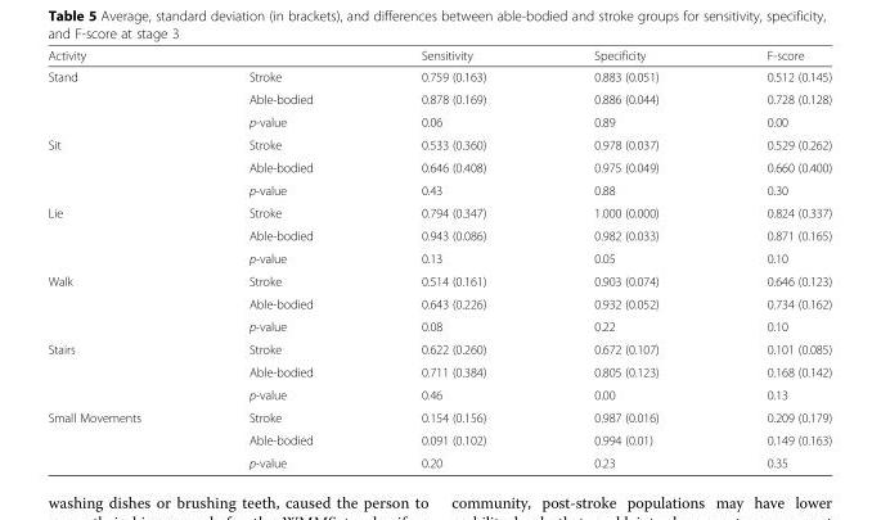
<table><thead><tr><td>Activity</td><td></td><td>Sensitivity</td><td>Specificity</td><td>F-score</td></tr></thead><tbody><tr><td rowspan="3">Stand</td><td>Stroke</td><td>0.759 (0.163)</td><td>0.883 (0.051)</td><td>0.512 (0.145)</td></tr><tr><td>Able-bodied</td><td>0.878 (0.169)</td><td>0.886 (0.044)</td><td>0.728 (0.128)</td></tr><tr><td>p-value</td><td>0.06</td><td>0.89</td><td>0.00</td></tr><tr><td rowspan="3">Sit</td><td>Stroke</td><td>0.533 (0.360)</td><td>0.978 (0.037)</td><td>0.529 (0.262)</td></tr><tr><td>Able-bodied</td><td>0.646 (0.408)</td><td>0.975 (0.049)</td><td>0.660 (0.400)</td></tr><tr><td>p-value</td><td>0.43</td><td>0.88</td><td>0.30</td></tr><tr><td rowspan="3">Lie</td><td>Stroke</td><td>0.794 (0.347)</td><td>1.000 (0.000)</td><td>0.824 (0.337)</td></tr><tr><td>Able-bodied</td><td>0.943 (0.086)</td><td>0.982 (0.033)</td><td>0.871 (0.165)</td></tr><tr><td>p-value</td><td>0.13</td><td>0.05</td><td>0.10</td></tr><tr><td rowspan="3">Walk</td><td>Stroke</td><td>0.514 (0.161)</td><td>0.903 (0.074)</td><td>0.646 (0.123)</td></tr><tr><td>Able-bodied</td><td>0.643 (0.226)</td><td>0.932 (0.052)</td><td>0.734 (0.162)</td></tr><tr><td>p-value</td><td>0.08</td><td>0.22</td><td>0.10</td></tr><tr><td rowspan="3">Stairs</td><td>Stroke</td><td>0.622 (0.260)</td><td>0.672 (0.107)</td><td>0.101 (0.085)</td></tr><tr><td>Able-bodied</td><td>0.711 (0.384)</td><td>0.805 (0.123)</td><td>0.168 (0.142)</td></tr><tr><td>p-value</td><td>0.46</td><td>0.00</td><td>0.13</td></tr><tr><td rowspan="3">Small Movements</td><td>Stroke</td><td>0.154 (0.156)</td><td>0.987 (0.016)</td><td>0.209 (0.179)</td></tr><tr><td>Able-bodied</td><td>0.091 (0.102)</td><td>0.994 (0.01)</td><td>0.149 (0.163)</td></tr><tr><td>p-value</td><td>0.20</td><td>0.23</td><td>0.35</td></tr></tbody></table>